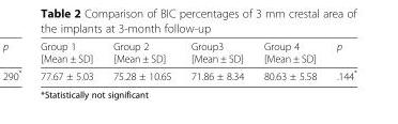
<table><thead><tr><td>Group 1 [Mean ± SD]</td><td>Group 2 [Mean ± SD]</td><td>Group3 [Mean ± SD]</td><td>Group 4 [Mean ± SD]</td><td>p</td></tr></thead><tbody><tr><td>77.67 ± 5.03</td><td>75.28 ± 10.65</td><td>71.86 ± 8.34</td><td>80.63 ± 5.58</td><td>.144*</td></tr></tbody></table>